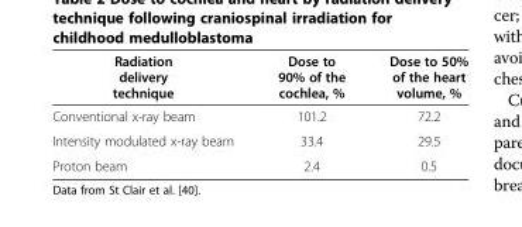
<table><thead><tr><td>Radiation delivery technique</td><td>Dose to 90% of the cochlea, %</td><td>Dose to 50% of the heart volume, %</td></tr></thead><tbody><tr><td>Conventional x-ray beam</td><td>101.2</td><td>72.2</td></tr><tr><td>Intensity modulated x-ray beam</td><td>33.4</td><td>29.5</td></tr><tr><td>Proton beam</td><td>2.4</td><td>0.5</td></tr></tbody></table>